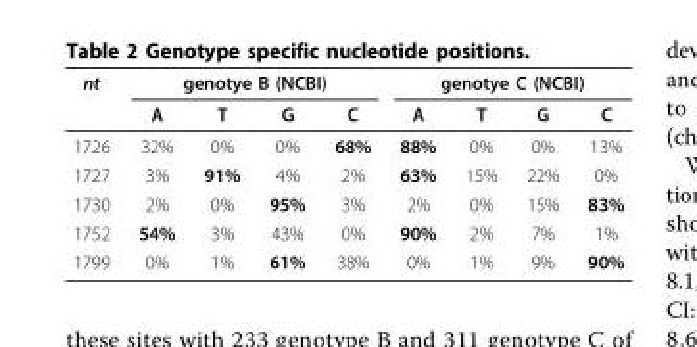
<table><thead><tr><td rowspan="2">nt</td><td colspan="4">genotye B (NCBI)</td><td colspan="4">genotye C (NCBI)</td></tr><tr><td>A</td><td>T</td><td>G</td><td>C</td><td>A</td><td>T</td><td>G</td><td>C</td></tr></thead><tbody><tr><td>1726</td><td>32%</td><td>0%</td><td>0%</td><td>68%</td><td>88%</td><td>0%</td><td>0%</td><td>13%</td></tr><tr><td>1727</td><td>3%</td><td>91%</td><td>4%</td><td>2%</td><td>63%</td><td>15%</td><td>22%</td><td>0%</td></tr><tr><td>1730</td><td>2%</td><td>0%</td><td>95%</td><td>3%</td><td>2%</td><td>0%</td><td>15%</td><td>83%</td></tr><tr><td>1752</td><td>54%</td><td>3%</td><td>43%</td><td>0%</td><td>90%</td><td>2%</td><td>7%</td><td>1%</td></tr><tr><td>1799</td><td>0%</td><td>1%</td><td>61%</td><td>38%</td><td>0%</td><td>1%</td><td>9%</td><td>90%</td></tr></tbody></table>